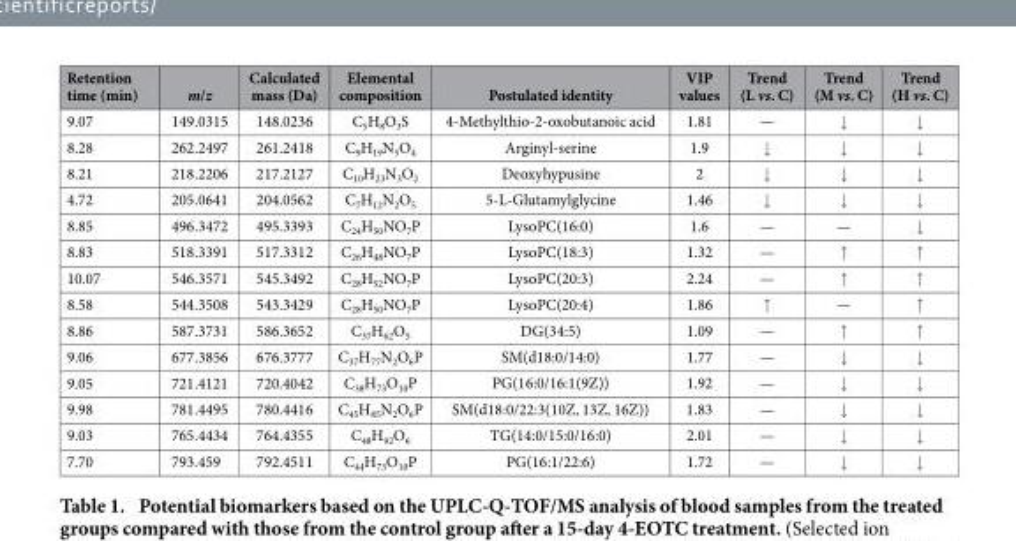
<table><thead><tr><td>Retention time (min)</td><td>m/z</td><td>Calculated mass (Da)</td><td>Elemental composition</td><td>Postulated identity</td><td>VIP values</td><td>Trend (L vs. C)</td><td>Trend (M vs. C)</td><td>Trend (H vs. C)</td></tr></thead><tbody><tr><td>9.07</td><td>149.0315</td><td>148.0236</td><td>C<sub>5</sub>H<sub>8</sub>O<sub>3</sub>S</td><td>4-Methylthio-2-oxobutanoic acid</td><td>1.81</td><td>—</td><td>↓</td><td>↓</td></tr><tr><td>8.28</td><td>262.2497</td><td>261.2418</td><td>C<sub>9</sub>H<sub>19</sub>N<sub>5</sub>O<sub>4</sub></td><td>Arginyl-serine</td><td>1.9</td><td>↓</td><td>↓</td><td>↓</td></tr><tr><td>8.21</td><td>218.2206</td><td>217.2127</td><td>C<sub>10</sub>H<sub>23</sub>N<sub>3</sub>O<sub>2</sub></td><td>Deoxyhypusine</td><td>2</td><td>↓</td><td>↓</td><td>↓</td></tr><tr><td>4.72</td><td>205.0641</td><td>204.0562</td><td>C<sub>7</sub>H<sub>12</sub>N<sub>2</sub>O<sub>5</sub></td><td>5-L-Glutamylglycine</td><td>1.46</td><td>↓</td><td>↓</td><td>↓</td></tr><tr><td>8.85</td><td>496.3472</td><td>495.3393</td><td>C<sub>24</sub>H<sub>50</sub>NO<sub>7</sub>P</td><td>LysoPC(16:0)</td><td>1.6</td><td>—</td><td>—</td><td>↓</td></tr><tr><td>8.83</td><td>518.3391</td><td>517.3312</td><td>C<sub>26</sub>H<sub>48</sub>NO<sub>7</sub>P</td><td>LysoPC(18:3)</td><td>1.32</td><td>—</td><td>↑</td><td>↑</td></tr><tr><td>10.07</td><td>546.3571</td><td>545.3492</td><td>C<sub>28</sub>H<sub>52</sub>NO<sub>7</sub>P</td><td>LysoPC(20:3)</td><td>2.24</td><td>—</td><td>↑</td><td>↑</td></tr><tr><td>8.58</td><td>544.3508</td><td>543.3429</td><td>C<sub>28</sub>H<sub>50</sub>NO<sub>7</sub>P</td><td>LysoPC(20:4)</td><td>1.86</td><td>↑</td><td>—</td><td>↑</td></tr><tr><td>8.86</td><td>587.3731</td><td>586.3652</td><td>C<sub>37</sub>H<sub>62</sub>O<sub>5</sub></td><td>DG(34:5)</td><td>1.09</td><td>—</td><td>↑</td><td>↑</td></tr><tr><td>9.06</td><td>677.3856</td><td>676.3777</td><td>C<sub>37</sub>H<sub>77</sub>N<sub>2</sub>O<sub>6</sub>P</td><td>SM(d18:0/14:0)</td><td>1.77</td><td>—</td><td>↓</td><td>↓</td></tr><tr><td>9.05</td><td>721.4121</td><td>720.4042</td><td>C<sub>38</sub>H<sub>73</sub>O<sub>10</sub>P</td><td>PG(16:0/16:1(9Z))</td><td>1.92</td><td>—</td><td>↓</td><td>↓</td></tr><tr><td>9.98</td><td>781.4495</td><td>780.4416</td><td>C<sub>45</sub>H<sub>85</sub>N<sub>2</sub>O<sub>6</sub>P</td><td>SM(d18:0/22:3(10Z, 13Z, 16Z))</td><td>1.83</td><td>—</td><td>↓</td><td>↓</td></tr><tr><td>9.03</td><td>765.4434</td><td>764.4355</td><td>C<sub>48</sub>H<sub>92</sub>O<sub>6</sub></td><td>TG(14:0/15:0/16:0)</td><td>2.01</td><td>—</td><td>↓</td><td>↓</td></tr><tr><td>7.70</td><td>793.459</td><td>792.4511</td><td>C<sub>44</sub>H<sub>73</sub>O<sub>10</sub>P</td><td>PG(16:1/22:6)</td><td>1.72</td><td>—</td><td>↓</td><td>↓</td></tr></tbody></table>